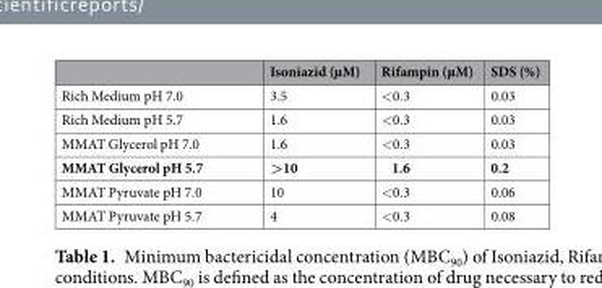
<table><thead><tr><td></td><td>Isoniazid (µM)</td><td>Rifampin (µM)</td><td>SDS (%)</td></tr></thead><tbody><tr><td>Rich Medium pH 7.0</td><td>3.5</td><td>&lt;0.3</td><td>0.03</td></tr><tr><td>Rich Medium pH 5.7</td><td>1.6</td><td>&lt;0.3</td><td>0.03</td></tr><tr><td>MMAT Glycerol pH 7.0</td><td>1.6</td><td>&lt;0.3</td><td>0.03</td></tr><tr><td>MMAT Glycerol pH 5.7</td><td>&gt;10</td><td>1.6</td><td>0.2</td></tr><tr><td>MMAT Pyruvate pH 7.0</td><td>10</td><td>&lt;0.3</td><td>0.06</td></tr><tr><td>MMAT Pyruvate pH 5.7</td><td>4</td><td>&lt;0.3</td><td>0.08</td></tr></tbody></table>